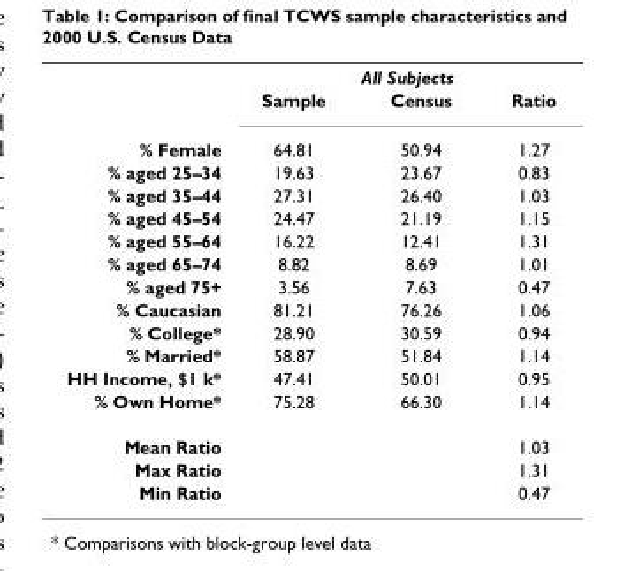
<table><thead><tr><td rowspan="2"></td><td colspan="3">All Subjects</td></tr><tr><td>Sample</td><td>Census</td><td>Ratio</td></tr></thead><tbody><tr><td>% Female</td><td>64.81</td><td>50.94</td><td>1.27</td></tr><tr><td>% aged 25–34</td><td>19.63</td><td>23.67</td><td>0.83</td></tr><tr><td>% aged 35–44</td><td>27.31</td><td>26.40</td><td>1.03</td></tr><tr><td>% aged 45–54</td><td>24.47</td><td>21.19</td><td>1.15</td></tr><tr><td>% aged 55–64</td><td>16.22</td><td>12.41</td><td>1.31</td></tr><tr><td>% aged 65–74</td><td>8.82</td><td>8.69</td><td>1.01</td></tr><tr><td>% aged 75+</td><td>3.56</td><td>7.63</td><td>0.47</td></tr><tr><td>% Caucasian</td><td>81.21</td><td>76.26</td><td>1.06</td></tr><tr><td>% College*</td><td>28.90</td><td>30.59</td><td>0.94</td></tr><tr><td>% Married*</td><td>58.87</td><td>51.84</td><td>1.14</td></tr><tr><td>HH Income, $1 k*</td><td>47.41</td><td>50.01</td><td>0.95</td></tr><tr><td>% Own Home*</td><td>75.28</td><td>66.30</td><td>1.14</td></tr><tr><td>Mean Ratio</td><td></td><td></td><td>1.03</td></tr><tr><td>Max Ratio</td><td></td><td></td><td>1.31</td></tr><tr><td>Min Ratio</td><td></td><td></td><td>0.47</td></tr></tbody></table>